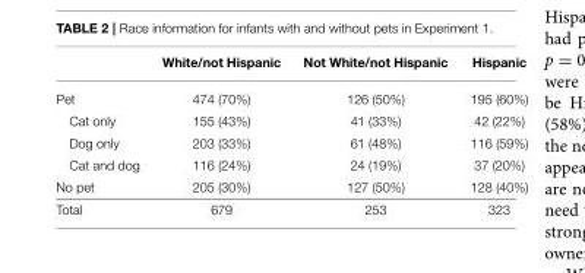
<table><thead><tr><td></td><td>White/not Hispanic</td><td>Not White/not Hispanic</td><td>Hispanic</td></tr></thead><tbody><tr><td>Pet</td><td>474 (70%)</td><td>126 (50%)</td><td>195 (60%)</td></tr><tr><td>Cat only</td><td>155 (43%)</td><td>41 (33%)</td><td>42 (22%)</td></tr><tr><td>Dog only</td><td>203 (33%)</td><td>61 (48%)</td><td>116 (59%)</td></tr><tr><td>Cat and dog</td><td>116 (24%)</td><td>24 (19%)</td><td>37 (20%)</td></tr><tr><td>No pet</td><td>205 (30%)</td><td>127 (50%)</td><td>128 (40%)</td></tr><tr><td>Total</td><td>679</td><td>253</td><td>323</td></tr></tbody></table>